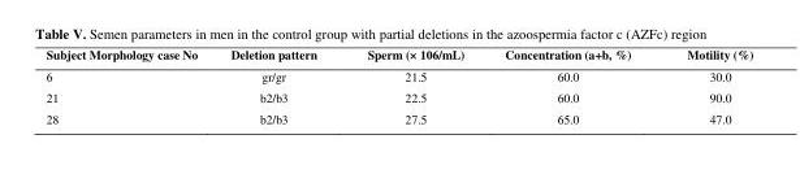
<table><thead><tr><td>Subject Morphology case No</td><td>Deletion pattern</td><td>Sperm (× 106/mL)</td><td>Concentration (a+b, %)</td><td>Motility (%)</td></tr></thead><tbody><tr><td>6</td><td>gr/gr</td><td>21.5</td><td>60.0</td><td>30.0</td></tr><tr><td>21</td><td>b2/b3</td><td>22.5</td><td>60.0</td><td>90.0</td></tr><tr><td>28</td><td>b2/b3</td><td>27.5</td><td>65.0</td><td>47.0</td></tr></tbody></table>